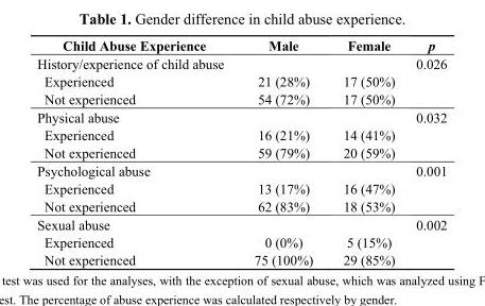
<table><thead><tr><td>Child Abuse Experience</td><td>Male</td><td>Female</td><td>p</td></tr></thead><tbody><tr><td>History/experience of child abuse</td><td></td><td></td><td>0.026</td></tr><tr><td>Experienced</td><td>21 (28%)</td><td>17 (50%)</td><td></td></tr><tr><td>Not experienced</td><td>54 (72%)</td><td>17 (50%)</td><td></td></tr><tr><td>Physical abuse</td><td></td><td></td><td>0.032</td></tr><tr><td>Experienced</td><td>16 (21%)</td><td>14 (41%)</td><td></td></tr><tr><td>Not experienced</td><td>59 (79%)</td><td>20 (59%)</td><td></td></tr><tr><td>Psychological abuse</td><td></td><td></td><td>0.001</td></tr><tr><td>Experienced</td><td>13 (17%)</td><td>16 (47%)</td><td></td></tr><tr><td>Not experienced</td><td>62 (83%)</td><td>18 (53%)</td><td></td></tr><tr><td>Sexual abuse</td><td></td><td></td><td>0.002</td></tr><tr><td>Experienced</td><td>0 (0%)</td><td>5 (15%)</td><td></td></tr><tr><td>Not experienced</td><td>75 (100%)</td><td>29 (85%)</td><td></td></tr></tbody></table>